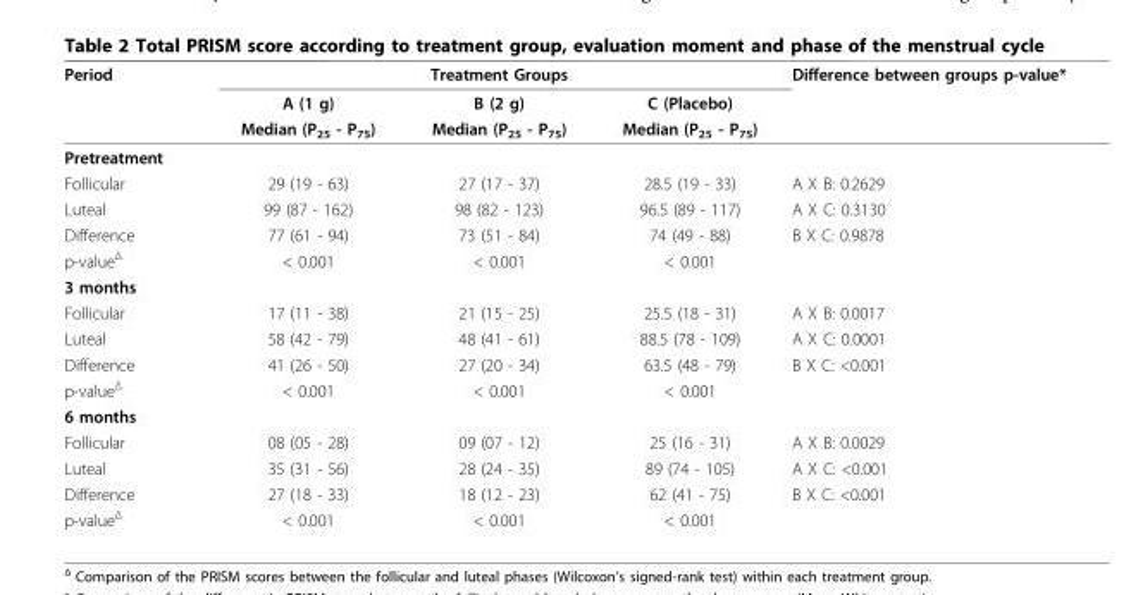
<table><thead><tr><td rowspan="3">Period</td><td colspan="3">Treatment Groups</td><td rowspan="3">Difference between groups p-value*</td></tr><tr><td rowspan="2">A (1 g) Median (P<sub>25</sub> - P<sub>75</sub>)</td><td rowspan="2">B (2 g) Median (P<sub>25</sub> - P<sub>75</sub>)</td><td rowspan="2">C (Placebo) Median (P<sub>25</sub> - P<sub>75</sub>)</td></tr><tr></tr></thead><tbody><tr><td colspan="5">Pretreatment</td></tr><tr><td>Follicular</td><td>29 (19 - 63)</td><td>27 (17 - 37)</td><td>28.5 (19 - 33)</td><td>A X B: 0.2629</td></tr><tr><td>Luteal</td><td>99 (87 - 162)</td><td>98 (82 - 123)</td><td>96.5 (89 - 117)</td><td>A X C: 0.3130</td></tr><tr><td>Difference</td><td>77 (61 - 94)</td><td>73 (51 - 84)</td><td>74 (49 - 88)</td><td>B X C: 0.9878</td></tr><tr><td>p-value<sup>Δ</sup></td><td>&lt; 0.001</td><td>&lt; 0.001</td><td>&lt; 0.001</td><td></td></tr><tr><td colspan="5">3 months</td></tr><tr><td>Follicular</td><td>17 (11 - 38)</td><td>21 (15 - 25)</td><td>25.5 (18 - 31)</td><td>A X B: 0.0017</td></tr><tr><td>Luteal</td><td>58 (42 - 79)</td><td>48 (41 - 61)</td><td>88.5 (78 - 109)</td><td>A X C: 0.0001</td></tr><tr><td>Difference</td><td>41 (26 - 50)</td><td>27 (20 - 34)</td><td>63.5 (48 - 79)</td><td>B X C: &lt;0.001</td></tr><tr><td>p-value<sup>Δ</sup></td><td>&lt; 0.001</td><td>&lt; 0.001</td><td>&lt; 0.001</td><td></td></tr><tr><td colspan="5">6 months</td></tr><tr><td>Follicular</td><td>08 (05 - 28)</td><td>09 (07 - 12)</td><td>25 (16 - 31)</td><td>A X B: 0.0029</td></tr><tr><td>Luteal</td><td>35 (31 - 56)</td><td>28 (24 - 35)</td><td>89 (74 - 105)</td><td>A X C: &lt;0.001</td></tr><tr><td>Difference</td><td>27 (18 - 33)</td><td>18 (12 - 23)</td><td>62 (41 - 75)</td><td>B X C: &lt;0.001</td></tr><tr><td>p-value<sup>Δ</sup></td><td>&lt; 0.001</td><td>&lt; 0.001</td><td>&lt; 0.001</td><td></td></tr></tbody></table>